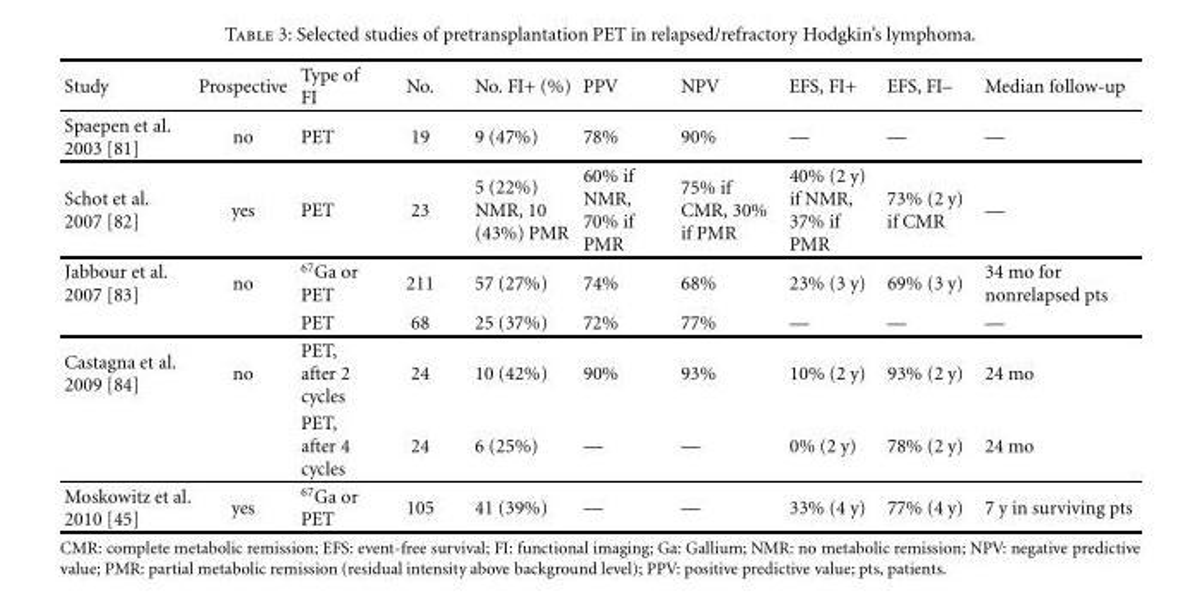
<table><thead><tr><td>Study</td><td>Prospective</td><td>Type of FI</td><td>No.</td><td>No. FI+ (%)</td><td>PPV</td><td>NPV</td><td>EFS, FI+</td><td>EFS, FI–</td><td>Median follow-up</td></tr></thead><tbody><tr><td>Spaepen et al. 2003 [81]</td><td>no</td><td>PET</td><td>19</td><td>9 (47%)</td><td>78%</td><td>90%</td><td>—</td><td>—</td><td>—</td></tr><tr><td>Schot et al. 2007 [82]</td><td>yes</td><td>PET</td><td>23</td><td>5 (22%) NMR, 10 (43%) PMR</td><td>60% if NMR, 70% if PMR</td><td>75% if CMR, 30% if PMR</td><td>40% (2 y) if NMR, 37% if PMR</td><td>73% (2 y) if CMR</td><td>—</td></tr><tr><td rowspan="2">Jabbour et al. 2007 [83]</td><td>no</td><td><sup>67</sup>Ga or PET</td><td>211</td><td>57 (27%)</td><td>74%</td><td>68%</td><td>23% (3 y)</td><td>69% (3 y)</td><td>34 mo for nonrelapsed pts</td></tr><tr><td></td><td>PET</td><td>68</td><td>25 (37%)</td><td>72%</td><td>77%</td><td>—</td><td>—</td><td>—</td></tr><tr><td rowspan="2">Castagna et al. 2009 [84]</td><td>no</td><td>PET, after 2 cycles</td><td>24</td><td>10 (42%)</td><td>90%</td><td>93%</td><td>10% (2 y)</td><td>93% (2 y)</td><td>24 mo</td></tr><tr><td></td><td>PET, after 4 cycles</td><td>24</td><td>6 (25%)</td><td>—</td><td>—</td><td>0% (2 y)</td><td>78% (2 y)</td><td>24 mo</td></tr><tr><td>Moskowitz et al. 2010 [45]</td><td>yes</td><td><sup>67</sup>Ga or PET</td><td>105</td><td>41 (39%)</td><td>—</td><td>—</td><td>33% (4 y)</td><td>77% (4 y)</td><td>7 y in surviving pts</td></tr></tbody></table>